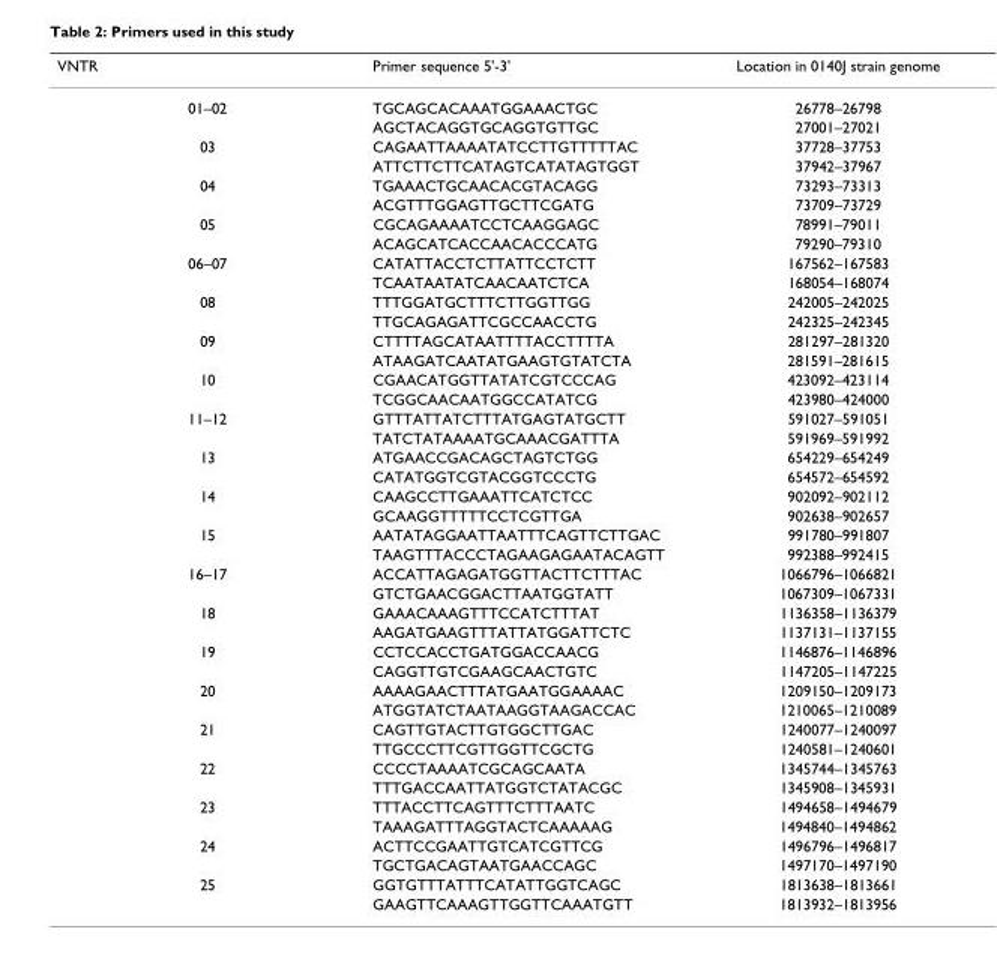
<table><thead><tr><td>VNTR</td><td>Primer sequence 5&#x27;-3&#x27;</td><td>Location in 0140J strain genome</td></tr></thead><tbody><tr><td rowspan="2">01–02</td><td>TGCAGCACAAATGGAAACTGC</td><td>26778–26798</td></tr><tr><td>AGCTACAGGTGCAGGTGTTGC</td><td>27001–27021</td></tr><tr><td rowspan="2">03</td><td>CAGAATTAAAATATCCTTGTTTTTAC</td><td>37728–37753</td></tr><tr><td>ATTCTTCTTCATAGTCATATAGTGGT</td><td>37942–37967</td></tr><tr><td rowspan="2">04</td><td>TGAAACTGCAACACGTACAGG</td><td>73293–73313</td></tr><tr><td>ACGTTTGGAGTTGCTTCGATG</td><td>73709–73729</td></tr><tr><td rowspan="2">05</td><td>CGCAGAAAATCCTCAAGGAGC</td><td>78991–79011</td></tr><tr><td>ACAGCATCACCAACACCCATG</td><td>79290–79310</td></tr><tr><td rowspan="2">06–07</td><td>CATATTACCTCTTATTCCTCTT</td><td>167562–167583</td></tr><tr><td>TCAATAATATCAACAATCTCA</td><td>168054–168074</td></tr><tr><td rowspan="2">08</td><td>TTTGGATGCTTTCTTGGTTGG</td><td>242005–242025</td></tr><tr><td>TTGCAGAGATTCGCCAACCTG</td><td>242325–242345</td></tr><tr><td rowspan="2">09</td><td>CTTTTAGCATAATTTTACCTTTTA</td><td>281297–281320</td></tr><tr><td>ATAAGATCAATATGAAGTGTATCTA</td><td>281591–281615</td></tr><tr><td rowspan="2">10</td><td>CGAACATGGTTATATCGTCCCAG</td><td>423092–423114</td></tr><tr><td>TCGGCAACAATGGCCATATCG</td><td>423980–424000</td></tr><tr><td rowspan="2">11–12</td><td>GTTTATTATCTTTATGAGTATGCTT</td><td>591027–591051</td></tr><tr><td>TATCTATAAAATGCAAACGATTTA</td><td>591969–591992</td></tr><tr><td rowspan="2">13</td><td>ATGAACCGACAGCTAGTCTGG</td><td>654229–654249</td></tr><tr><td>CATATGGTCGTACGGTCCCTG</td><td>654572–654592</td></tr><tr><td rowspan="2">14</td><td>CAAGCCTTGAAATTCATCTCC</td><td>902092–902112</td></tr><tr><td>GCAAGGTTTTTCCTCGTTGA</td><td>902638–902657</td></tr><tr><td rowspan="2">15</td><td>AATATAGGAATTAATTTCAGTTCTTGAC</td><td>991780–991807</td></tr><tr><td>TAAGTTTACCCTAGAAGAGAATACAGTT</td><td>992388–992415</td></tr><tr><td rowspan="2">16–17</td><td>ACCATTAGAGATGGTTACTTCTTTAC</td><td>1066796–1066821</td></tr><tr><td>GTCTGAACGGACTTAATGGTATT</td><td>1067309–1067331</td></tr><tr><td rowspan="2">18</td><td>GAAACAAAGTTTCCATCTTTAT</td><td>1136358–1136379</td></tr><tr><td>AAGATGAAGTTTATTATGGATTCTC</td><td>1137131–1137155</td></tr><tr><td rowspan="2">19</td><td>CCTCCACCTGATGGACCAACG</td><td>1146876–1146896</td></tr><tr><td>CAGGTTGTCGAAGCAACTGTC</td><td>1147205–1147225</td></tr><tr><td rowspan="2">20</td><td>AAAAGAACTTTATGAATGGAAAAC</td><td>1209150–1209173</td></tr><tr><td>ATGGTATCTAATAAGGTAAGACCAC</td><td>1210065–1210089</td></tr><tr><td rowspan="2">21</td><td>CAGTTGTACTTGTGGCTTGAC</td><td>1240077–1240097</td></tr><tr><td>TTGCCCTTCGTTGGTTCGCTG</td><td>1240581–1240601</td></tr><tr><td rowspan="2">22</td><td>CCCCTAAAATCGCAGCAATA</td><td>1345744–1345763</td></tr><tr><td>TTTGACCAATTATGGTCTATACGC</td><td>1345908–1345931</td></tr><tr><td rowspan="2">23</td><td>TTTACCTTCAGTTTCTTTAATC</td><td>1494658–1494679</td></tr><tr><td>TAAAGATTTAGGTACTCAAAAAG</td><td>1494840–1494862</td></tr><tr><td rowspan="2">24</td><td>ACTTCCGAATTGTCATCGTTCG</td><td>1496796–1496817</td></tr><tr><td>TGCTGACAGTAATGAACCAGC</td><td>1497170–1497190</td></tr><tr><td rowspan="2">25</td><td>GGTGTTTATTTCATATTGGTCAGC</td><td>1813638–1813661</td></tr><tr><td>GAAGTTCAAAGTTGGTTCAAATGTT</td><td>1813932–1813956</td></tr></tbody></table>